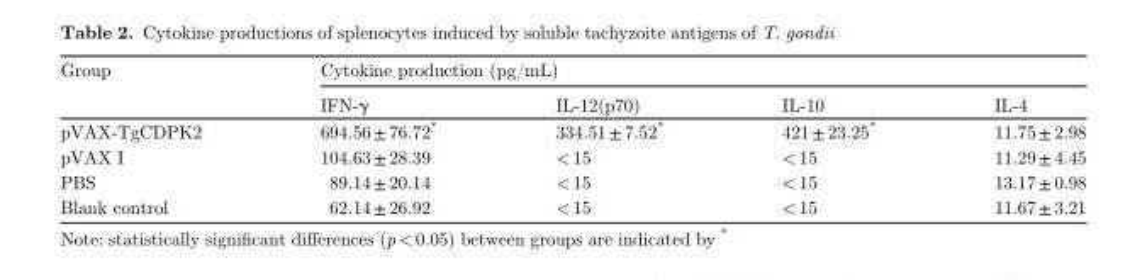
<table><thead><tr><td rowspan="2">Group</td><td colspan="4">Cytokine production (pg/mL)</td></tr><tr><td>IFN-γ</td><td>IL-12(p70)</td><td>IL-10</td><td>IL-4</td></tr></thead><tbody><tr><td>pVAX-TgCDPK2</td><td>694.56 ± 76.72*</td><td>334.51 ± 7.52*</td><td>421 ± 23.25*</td><td>11.75 ± 2.98</td></tr><tr><td>pVAX I</td><td>104.63 ± 28.39</td><td>&lt; 15</td><td>&lt; 15</td><td>11.29 ± 4.45</td></tr><tr><td>PBS</td><td>89.14 ± 20.14</td><td>&lt; 15</td><td>&lt; 15</td><td>13.17 ± 0.98</td></tr><tr><td>Blank control</td><td>62.14 ± 26.92</td><td>&lt; 15</td><td>&lt; 15</td><td>11.67 ± 3.21</td></tr></tbody></table>